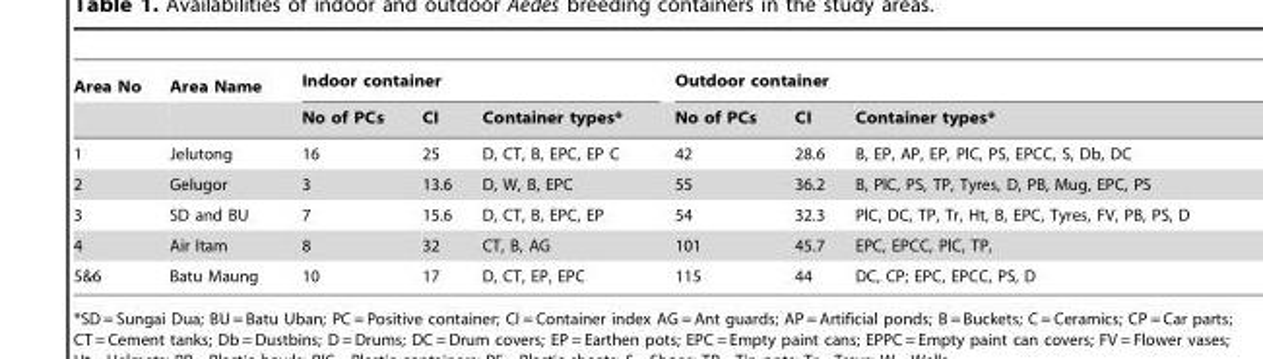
<table><thead><tr><td rowspan="2">Area No</td><td rowspan="2">Area Name</td><td colspan="3">Indoor container</td><td colspan="3">Outdoor container</td></tr><tr><td>No of PCs</td><td>CI</td><td>Container types*</td><td>No of PCs</td><td>CI</td><td>Container types*</td></tr></thead><tbody><tr><td>1</td><td>Jelutong</td><td>16</td><td>25</td><td>D, CT, B, EPC, EP C</td><td>42</td><td>28.6</td><td>B, EP, AP, EP, PlC, PS, EPCC, S, Db, DC</td></tr><tr><td>2</td><td>Gelugor</td><td>3</td><td>13.6</td><td>D, W, B, EPC</td><td>55</td><td>36.2</td><td>B, PlC, PS, TP, Tyres, D, PB, Mug, EPC, PS</td></tr><tr><td>3</td><td>SD and BU</td><td>7</td><td>15.6</td><td>D, CT, B, EPC, EP</td><td>54</td><td>32.3</td><td>PlC, DC, TP, Tr, Ht, B, EPC, Tyres, FV, PB, PS, D</td></tr><tr><td>4</td><td>Air Itam</td><td>8</td><td>32</td><td>CT, B, AG</td><td>101</td><td>45.7</td><td>EPC, EPCC, PlC, TP,</td></tr><tr><td>5&amp;6</td><td>Batu Maung</td><td>10</td><td>17</td><td>D, CT, EP, EPC</td><td>115</td><td>44</td><td>DC, CP; EPC, EPCC, PS, D</td></tr></tbody></table>